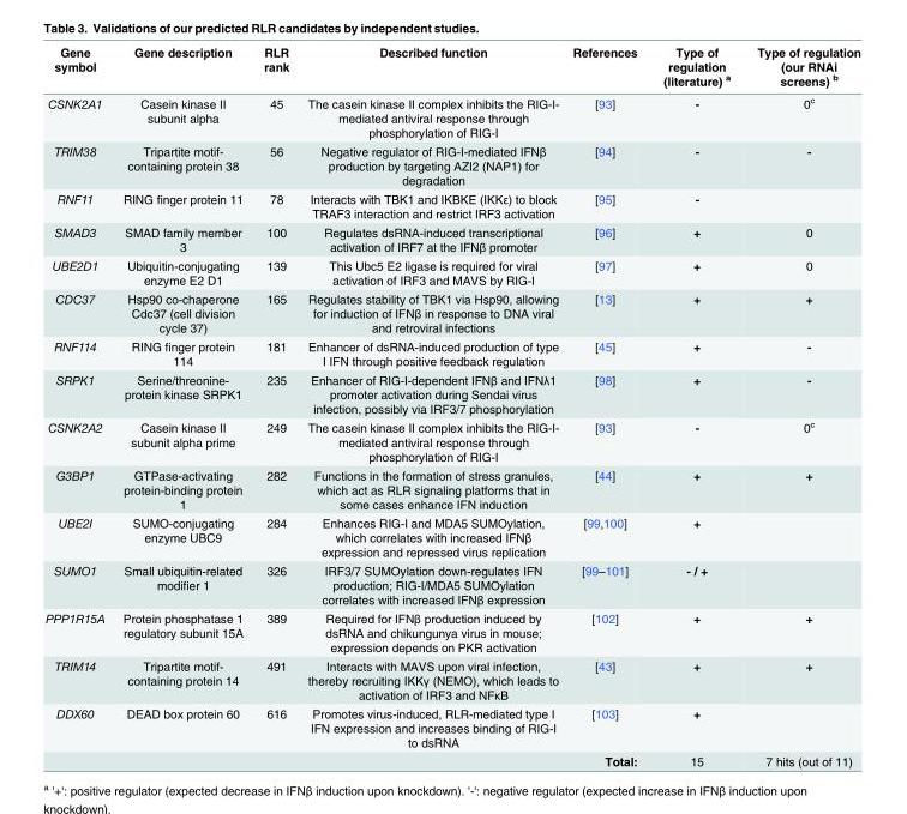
<table><thead><tr><td>Gene symbol</td><td>Gene description</td><td>RLR rank</td><td>Described function</td><td>References</td><td>Type of regulation (literature) <sup>a</sup></td><td>Type of regulation (our RNAi screens) <sup>b</sup></td></tr></thead><tbody><tr><td>CSNK2A1</td><td>Casein kinase II subunit alpha</td><td>45</td><td>The casein kinase II complex inhibits the RIG-I- mediated antiviral response through phosphorylation of RIG-I</td><td>[93]</td><td>-</td><td>0<sup>c</sup></td></tr><tr><td>TRIM38</td><td>Tripartite motif- containing protein 38</td><td>56</td><td>Negative regulator of RIG-I-mediated IFNβ production by targeting AZI2 (NAP1) for degradation</td><td>[94]</td><td>-</td><td>-</td></tr><tr><td>RNF11</td><td>RING finger protein 11</td><td>78</td><td>Interacts with TBK1 and IKBKE (IKKε) to block TRAF3 interaction and restrict IRF3 activation</td><td>[95]</td><td>-</td><td></td></tr><tr><td>SMAD3</td><td>SMAD family member 3</td><td>100</td><td>Regulates dsRNA-induced transcriptional activation of IRF7 at the IFNβ promoter</td><td>[96]</td><td>+</td><td>0</td></tr><tr><td>UBE2D1</td><td>Ubiquitin-conjugating enzyme E2 D1</td><td>139</td><td>This Ubc5 E2 ligase is required for viral activation of IRF3 and MAVS by RIG-I</td><td>[97]</td><td>+</td><td>0</td></tr><tr><td>CDC37</td><td>Hsp90 co-chaperone Cdc37 (cell division cycle 37)</td><td>165</td><td>Regulates stability of TBK1 via Hsp90, allowing for induction of IFNβ in response to DNA viral and retroviral infections</td><td>[13]</td><td>+</td><td>+</td></tr><tr><td>RNF114</td><td>RING finger protein 114</td><td>181</td><td>Enhancer of dsRNA-induced production of type I IFN through positive feedback regulation</td><td>[45]</td><td>+</td><td>-</td></tr><tr><td>SRPK1</td><td>Serine/threonine- protein kinase SRPK1</td><td>235</td><td>Enhancer of RIG-I-dependent IFNβ and IFNλ1 promoter activation during Sendai virus infection, possibly via IRF3/7 phosphorylation</td><td>[98]</td><td>+</td><td>-</td></tr><tr><td>CSNK2A2</td><td>Casein kinase II subunit alpha prime</td><td>249</td><td>The casein kinase II complex inhibits the RIG-I- mediated antiviral response through phosphorylation of RIG-I</td><td>[93]</td><td>-</td><td>0<sup>c</sup></td></tr><tr><td>G3BP1</td><td>GTPase-activating protein-binding protein 1</td><td>282</td><td>Functions in the formation of stress granules, which act as RLR signaling platforms that in some cases enhance IFN induction</td><td>[44]</td><td>+</td><td>+</td></tr><tr><td>UBE2I</td><td>SUMO-conjugating enzyme UBC9</td><td>284</td><td>Enhances RIG-I and MDA5 SUMOylation, which correlates with increased IFNβ expression and repressed virus replication</td><td>[99,100]</td><td>+</td><td></td></tr><tr><td>SUMO1</td><td>Small ubiquitin-related modifier 1</td><td>326</td><td>IRF3/7 SUMOylation down-regulates IFN production; RIG-I/MDA5 SUMOylation correlates with increased IFNβ expression</td><td>[99–101]</td><td>- / +</td><td></td></tr><tr><td>PPP1R15A</td><td>Protein phosphatase 1 regulatory subunit 15A</td><td>389</td><td>Required for IFNβ production induced by dsRNA and chikungunya virus in mouse; expression depends on PKR activation</td><td>[102]</td><td>+</td><td>+</td></tr><tr><td>TRIM14</td><td>Tripartite motif- containing protein 14</td><td>491</td><td>Interacts with MAVS upon viral infection, thereby recruiting IKKγ (NEMO), which leads to activation of IRF3 and NFκB</td><td>[43]</td><td>+</td><td>+</td></tr><tr><td rowspan="2">DDX60</td><td>DEAD box protein 60</td><td>616</td><td>Promotes virus-induced, RLR-mediated type I IFN expression and increases binding of RIG-I to dsRNA</td><td>[103]</td><td>+</td><td></td></tr><tr><td></td><td></td><td></td><td>Total:</td><td>15</td><td>7 hits (out of 11)</td></tr></tbody></table>